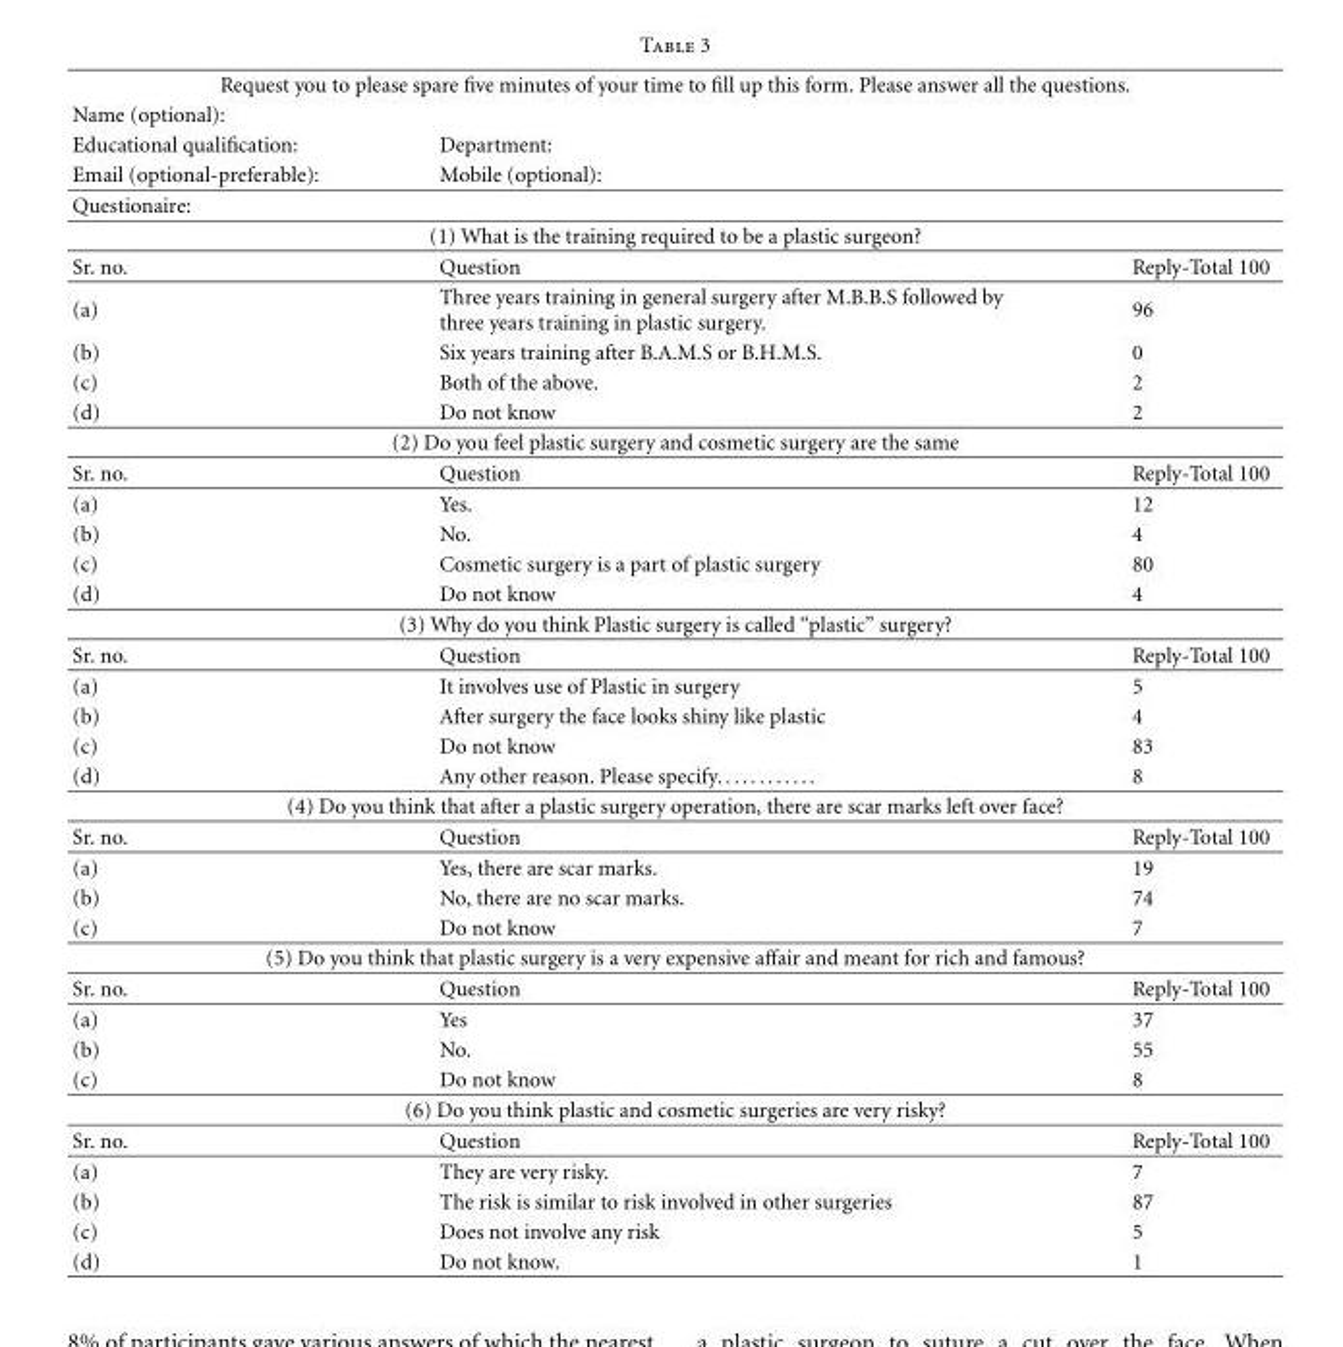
<table><thead><tr><td colspan="3">Request you to please spare five minutes of your time to fill up this form. Please answer all the questions.</td></tr><tr><td rowspan="3">Name (optional): Educational qualification: Email (optional-preferable):</td><td rowspan="3">Department: Mobile (optional):</td><td rowspan="3"></td></tr><tr></tr><tr></tr></thead><tbody><tr><td colspan="3">Questionaire:</td></tr><tr><td colspan="3">(1) What is the training required to be a plastic surgeon?</td></tr><tr><td>Sr. no.</td><td>Question</td><td>Reply-Total 100</td></tr><tr><td>(a)</td><td>Three years training in general surgery after M.B.B.S followed by three years training in plastic surgery.</td><td>96</td></tr><tr><td>(b)</td><td>Six years training after B.A.M.S or B.H.M.S.</td><td>0</td></tr><tr><td>(c)</td><td>Both of the above.</td><td>2</td></tr><tr><td>(d)</td><td>Do not know</td><td>2</td></tr><tr><td colspan="3">(2) Do you feel plastic surgery and cosmetic surgery are the same</td></tr><tr><td>Sr. no.</td><td>Question</td><td>Reply-Total 100</td></tr><tr><td>(a)</td><td>Yes.</td><td>12</td></tr><tr><td>(b)</td><td>No.</td><td>4</td></tr><tr><td>(c)</td><td>Cosmetic surgery is a part of plastic surgery</td><td>80</td></tr><tr><td>(d)</td><td>Do not know</td><td>4</td></tr><tr><td colspan="3">(3) Why do you think Plastic surgery is called “plastic” surgery?</td></tr><tr><td>Sr. no.</td><td>Question</td><td>Reply-Total 100</td></tr><tr><td>(a)</td><td>It involves use of Plastic in surgery</td><td>5</td></tr><tr><td>(b)</td><td>After surgery the face looks shiny like plastic</td><td>4</td></tr><tr><td>(c)</td><td>Do not know</td><td>83</td></tr><tr><td>(d)</td><td>Any other reason. Please specify............</td><td>8</td></tr><tr><td colspan="3">(4) Do you think that after a plastic surgery operation, there are scar marks left over face?</td></tr><tr><td>Sr. no.</td><td>Question</td><td>Reply-Total 100</td></tr><tr><td>(a)</td><td>Yes, there are scar marks.</td><td>19</td></tr><tr><td>(b)</td><td>No, there are no scar marks.</td><td>74</td></tr><tr><td>(c)</td><td>Do not know</td><td>7</td></tr><tr><td colspan="3">(5) Do you think that plastic surgery is a very expensive affair and meant for rich and famous?</td></tr><tr><td>Sr. no.</td><td>Question</td><td>Reply-Total 100</td></tr><tr><td>(a)</td><td>Yes</td><td>37</td></tr><tr><td>(b)</td><td>No.</td><td>55</td></tr><tr><td>(c)</td><td>Do not know</td><td>8</td></tr><tr><td colspan="3">(6) Do you think plastic and cosmetic surgeries are very risky?</td></tr><tr><td>Sr. no.</td><td>Question</td><td>Reply-Total 100</td></tr><tr><td>(a)</td><td>They are very risky.</td><td>7</td></tr><tr><td>(b)</td><td>The risk is similar to risk involved in other surgeries</td><td>87</td></tr><tr><td>(c)</td><td>Does not involve any risk</td><td>5</td></tr><tr><td>(d)</td><td>Do not know.</td><td>1</td></tr></tbody></table>